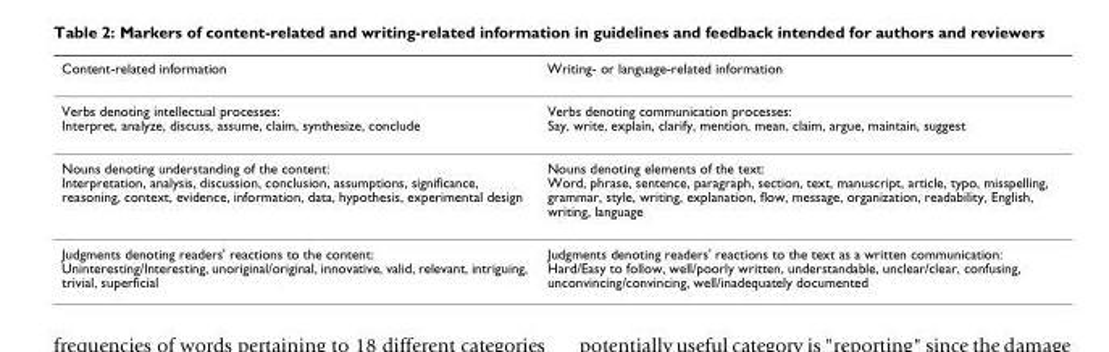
<table><thead><tr><td>Content-related information</td><td>Writing- or language-related information</td></tr></thead><tbody><tr><td>Verbs denoting intellectual processes: Interpret, analyze, discuss, assume, claim, synthesize, conclude</td><td>Verbs denoting communication processes: Say, write, explain, clarify, mention, mean, claim, argue, maintain, suggest</td></tr><tr><td>Nouns denoting understanding of the content: Interpretation, analysis, discussion, conclusion, assumptions, significance, reasoning, context, evidence, information, data, hypothesis, experimental design</td><td>Nouns denoting elements of the text: Word, phrase, sentence, paragraph, section, text, manuscript, article, typo, misspelling, grammar, style, writing, explanation, flow, message, organization, readability, English, writing, language</td></tr><tr><td>Judgments denoting readers&#x27; reactions to the content: Uninteresting/Interesting, unoriginal/original, innovative, valid, relevant, intriguing, trivial, superficial</td><td>Judgments denoting readers&#x27; reactions to the text as a written communication: Hard/Easy to follow, well/poorly written, understandable, unclear/clear, confusing, unconvincing/convincing, well/inadequately documented</td></tr></tbody></table>